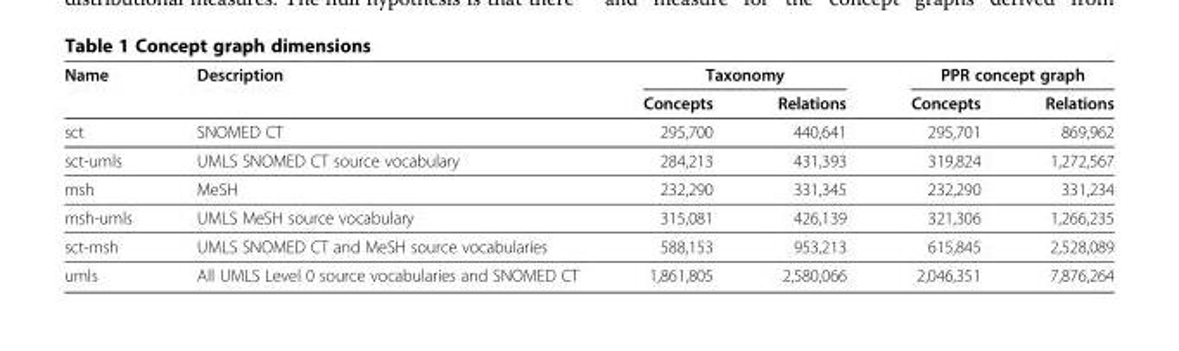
<table><thead><tr><td rowspan="2">Name</td><td rowspan="2">Description</td><td colspan="2">Taxonomy</td><td colspan="2">PPR concept graph</td></tr><tr><td>Concepts</td><td>Relations</td><td>Concepts</td><td>Relations</td></tr></thead><tbody><tr><td>sct</td><td>SNOMED CT</td><td>295,700</td><td>440,641</td><td>295,701</td><td>869,962</td></tr><tr><td>sct-umls</td><td>UMLS SNOMED CT source vocabulary</td><td>284,213</td><td>431,393</td><td>319,824</td><td>1,272,567</td></tr><tr><td>msh</td><td>MeSH</td><td>232,290</td><td>331,345</td><td>232,290</td><td>331,234</td></tr><tr><td>msh-umls</td><td>UMLS MeSH source vocabulary</td><td>315,081</td><td>426,139</td><td>321,306</td><td>1,266,235</td></tr><tr><td>sct-msh</td><td>UMLS SNOMED CT and MeSH source vocabularies</td><td>588,153</td><td>953,213</td><td>615,845</td><td>2,528,089</td></tr><tr><td>umls</td><td>All UMLS Level 0 source vocabularies and SNOMED CT</td><td>1,861,805</td><td>2,580,066</td><td>2,046,351</td><td>7,876,264</td></tr></tbody></table>